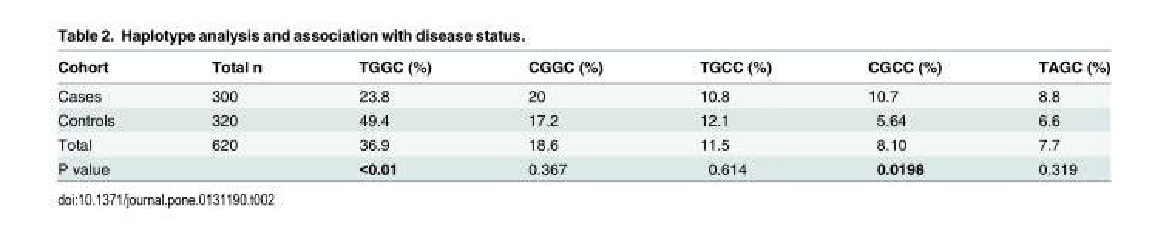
<table><thead><tr><td>Cohort</td><td>Total n</td><td>TGGC (%)</td><td>CGGC (%)</td><td>TGCC (%)</td><td>CGCC (%)</td><td>TAGC (%)</td></tr></thead><tbody><tr><td>Cases</td><td>300</td><td>23.8</td><td>20</td><td>10.8</td><td>10.7</td><td>8.8</td></tr><tr><td>Controls</td><td>320</td><td>49.4</td><td>17.2</td><td>12.1</td><td>5.64</td><td>6.6</td></tr><tr><td>Total</td><td>620</td><td>36.9</td><td>18.6</td><td>11.5</td><td>8.10</td><td>7.7</td></tr><tr><td>P value</td><td></td><td>&lt;0.01</td><td>0.367</td><td>0.614</td><td>0.0198</td><td>0.319</td></tr></tbody></table>